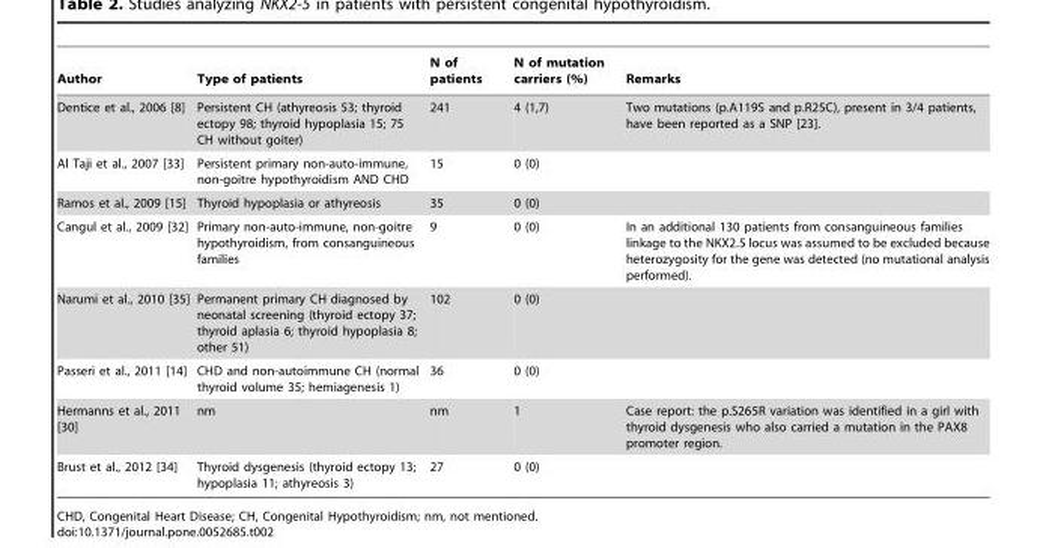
<table><thead><tr><td>Author</td><td>Type of patients</td><td>N of patients</td><td>N of mutation carriers (%)</td><td>Remarks</td></tr></thead><tbody><tr><td>Dentice et al., 2006 [8]</td><td>Persistent CH (athyreosis 53; thyroid ectopy 98; thyroid hypoplasia 15; 75 CH without goiter)</td><td>241</td><td>4 (1,7)</td><td>Two mutations (p.A119S and p.R25C), present in 3/4 patients, have been reported as a SNP [23].</td></tr><tr><td>Al Taji et al., 2007 [33]</td><td>Persistent primary non-auto-immune, non-goitre hypothyroidism AND CHD</td><td>15</td><td>0 (0)</td><td></td></tr><tr><td>Ramos et al., 2009 [15]</td><td>Thyroid hypoplasia or athyreosis</td><td>35</td><td>0 (0)</td><td></td></tr><tr><td>Cangul et al., 2009 [32]</td><td>Primary non-auto-immune, non-goitre hypothyroidism, from consanguineous families</td><td>9</td><td>0 (0)</td><td>In an additional 130 patients from consanguineous families linkage to the NKX2.5 locus was assumed to be excluded because heterozygosity for the gene was detected (no mutational analysis performed).</td></tr><tr><td>Narumi et al., 2010 [35]</td><td>Permanent primary CH diagnosed by neonatal screening (thyroid ectopy 37; thyroid aplasia 6; thyroid hypoplasia 8; other 51)</td><td>102</td><td>0 (0)</td><td></td></tr><tr><td>Passeri et al., 2011 [14]</td><td>CHD and non-autoimmune CH (normal thyroid volume 35; hemiagenesis 1)</td><td>36</td><td>0 (0)</td><td></td></tr><tr><td>Hermanns et al., 2011 [30]</td><td>nm</td><td>nm</td><td>1</td><td>Case report: the p.S265R variation was identified in a girl with thyroid dysgenesis who also carried a mutation in the PAX8 promoter region.</td></tr><tr><td>Brust et al., 2012 [34]</td><td>Thyroid dysgenesis (thyroid ectopy 13; hypoplasia 11; athyreosis 3)</td><td>27</td><td>0 (0)</td><td></td></tr></tbody></table>